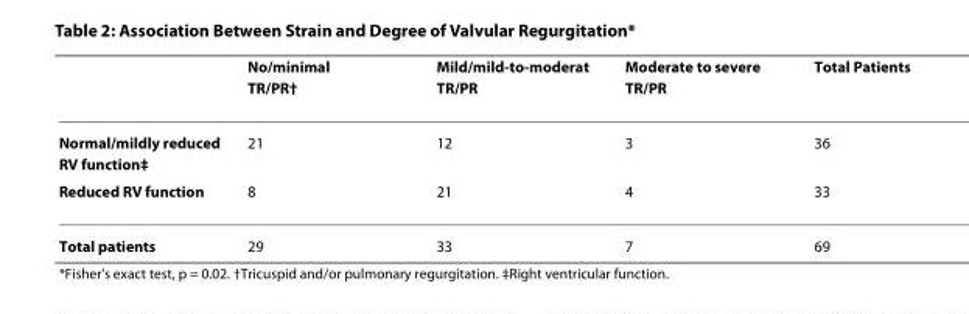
<table><thead><tr><td></td><td>No/minimal TR/PR†</td><td>Mild/mild-to-moderat TR/PR</td><td>Moderate to severe TR/PR</td><td>Total Patients</td></tr></thead><tbody><tr><td>Normal/mildly reduced RV function‡</td><td>21</td><td>12</td><td>3</td><td>36</td></tr><tr><td>Reduced RV function</td><td>8</td><td>21</td><td>4</td><td>33</td></tr><tr><td>Total patients</td><td>29</td><td>33</td><td>7</td><td>69</td></tr></tbody></table>